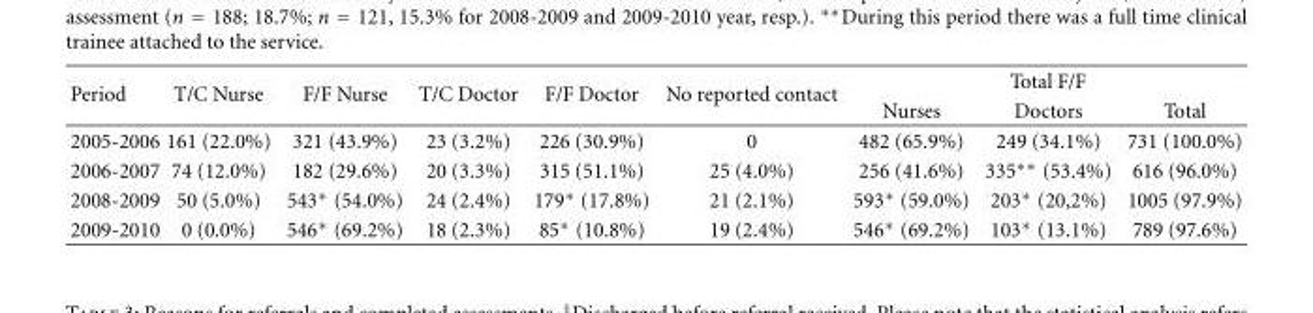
<table><thead><tr><td rowspan="2">Period</td><td rowspan="2">T/C Nurse</td><td rowspan="2">F/F Nurse</td><td rowspan="2">T/C Doctor</td><td rowspan="2">F/F Doctor</td><td rowspan="2">No reported contact</td><td colspan="3">Total F/F</td></tr><tr><td>Nurses</td><td>Doctors</td><td>Total</td></tr></thead><tbody><tr><td>2005-2006</td><td>161 (22.0%)</td><td>321 (43.9%)</td><td>23 (3.2%)</td><td>226 (30.9%)</td><td>0</td><td>482 (65.9%)</td><td>249 (34.1%)</td><td>731 (100.0%)</td></tr><tr><td>2006-2007</td><td>74 (12.0%)</td><td>182 (29.6%)</td><td>20 (3.3%)</td><td>315 (51.1%)</td><td>25 (4.0%)</td><td>256 (41.6%)</td><td>335∗∗ (53.4%)</td><td>616 (96.0%)</td></tr><tr><td>2008-2009</td><td>50 (5.0%)</td><td>543∗ (54.0%)</td><td>24 (2.4%)</td><td>179∗ (17.8%)</td><td>21 (2.1%)</td><td>593∗ (59.0%)</td><td>203∗ (20,2%)</td><td>1005 (97.9%)</td></tr><tr><td>2009-2010</td><td>0 (0.0%)</td><td>546∗ (69.2%)</td><td>18 (2.3%)</td><td>85∗ (10.8%)</td><td>19 (2.4%)</td><td>546∗ (69.2%)</td><td>103∗ (13.1%)</td><td>789 (97.6%)</td></tr></tbody></table>